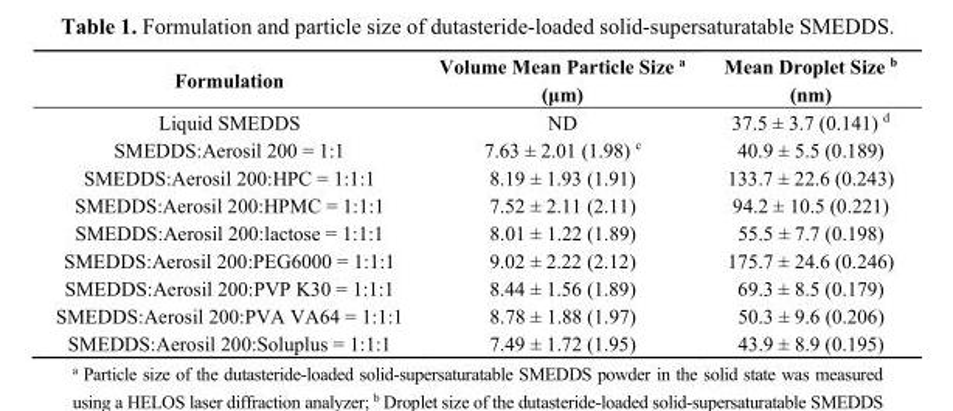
<table><thead><tr><td>Formulation</td><td>Volume Mean Particle Size <sup>a</sup> (μm)</td><td>Mean Droplet Size <sup>b</sup> (nm)</td></tr></thead><tbody><tr><td>Liquid SMEDDS</td><td>ND</td><td>37.5 ± 3.7 (0.141) <sup>d</sup></td></tr><tr><td>SMEDDS:Aerosil 200 = 1:1</td><td>7.63 ± 2.01 (1.98) <sup>c</sup></td><td>40.9 ± 5.5 (0.189)</td></tr><tr><td>SMEDDS:Aerosil 200:HPC = 1:1:1</td><td>8.19 ± 1.93 (1.91)</td><td>133.7 ± 22.6 (0.243)</td></tr><tr><td>SMEDDS:Aerosil 200:HPMC = 1:1:1</td><td>7.52 ± 2.11 (2.11)</td><td>94.2 ± 10.5 (0.221)</td></tr><tr><td>SMEDDS:Aerosil 200:lactose = 1:1:1</td><td>8.01 ± 1.22 (1.89)</td><td>55.5 ± 7.7 (0.198)</td></tr><tr><td>SMEDDS:Aerosil 200:PEG6000 = 1:1:1</td><td>9.02 ± 2.22 (2.12)</td><td>175.7 ± 24.6 (0.246)</td></tr><tr><td>SMEDDS:Aerosil 200:PVP K30 = 1:1:1</td><td>8.44 ± 1.56 (1.89)</td><td>69.3 ± 8.5 (0.179)</td></tr><tr><td>SMEDDS:Aerosil 200:PVA VA64 = 1:1:1</td><td>8.78 ± 1.88 (1.97)</td><td>50.3 ± 9.6 (0.206)</td></tr><tr><td>SMEDDS:Aerosil 200:Soluplus = 1:1:1</td><td>7.49 ± 1.72 (1.95)</td><td>43.9 ± 8.9 (0.195)</td></tr></tbody></table>